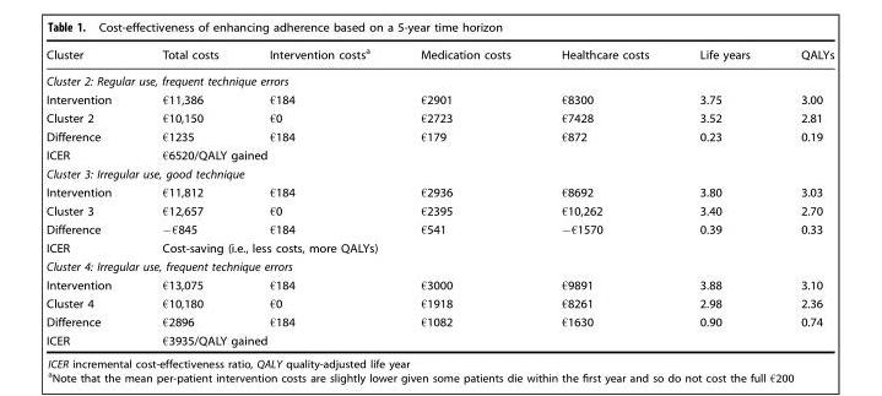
<table><thead><tr><td>Cluster</td><td>Total costs</td><td>Intervention costs<sup>a</sup></td><td>Medication costs</td><td>Healthcare costs</td><td>Life years</td><td>QALYs</td></tr></thead><tbody><tr><td colspan="7">Cluster 2: Regular use, frequent technique errors</td></tr><tr><td>Intervention</td><td>€11,386</td><td>€184</td><td>€2901</td><td>€8300</td><td>3.75</td><td>3.00</td></tr><tr><td>Cluster 2</td><td>€10,150</td><td>€0</td><td>€2723</td><td>€7428</td><td>3.52</td><td>2.81</td></tr><tr><td>Difference</td><td>€1235</td><td>€184</td><td>€179</td><td>€872</td><td>0.23</td><td>0.19</td></tr><tr><td>ICER</td><td colspan="6">€6520/QALY gained</td></tr><tr><td colspan="7">Cluster 3: Irregular use, good technique</td></tr><tr><td>Intervention</td><td>€11,812</td><td>€184</td><td>€2936</td><td>€8692</td><td>3.80</td><td>3.03</td></tr><tr><td>Cluster 3</td><td>€12,657</td><td>€0</td><td>€2395</td><td>€10,262</td><td>3.40</td><td>2.70</td></tr><tr><td>Difference</td><td>−€845</td><td>€184</td><td>€541</td><td>−€1570</td><td>0.39</td><td>0.33</td></tr><tr><td>ICER</td><td colspan="6">Cost-saving (i.e., less costs, more QALYs)</td></tr><tr><td colspan="7">Cluster 4: Irregular use, frequent technique errors</td></tr><tr><td>Intervention</td><td>€13,075</td><td>€184</td><td>€3000</td><td>€9891</td><td>3.88</td><td>3.10</td></tr><tr><td>Cluster 4</td><td>€10,180</td><td>€0</td><td>€1918</td><td>€8261</td><td>2.98</td><td>2.36</td></tr><tr><td>Difference</td><td>€2896</td><td>€184</td><td>€1082</td><td>€1630</td><td>0.90</td><td>0.74</td></tr><tr><td>ICER</td><td colspan="6">€3935/QALY gained</td></tr></tbody></table>